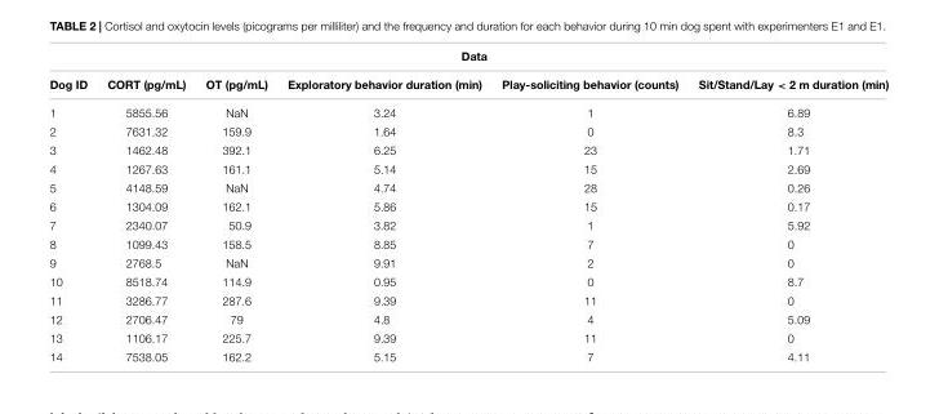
<table><thead><tr><td colspan="6">Data</td></tr><tr><td>Dog ID</td><td>CORT (pg/mL)</td><td>OT (pg/mL)</td><td>Exploratory behavior duration (min)</td><td>Play-soliciting behavior (counts)</td><td>Sit/Stand/Lay &lt; 2 m duration (min)</td></tr></thead><tbody><tr><td>1</td><td>5855.56</td><td>NaN</td><td>3.24</td><td>1</td><td>6.89</td></tr><tr><td>2</td><td>7631.32</td><td>159.9</td><td>1.64</td><td>0</td><td>8.3</td></tr><tr><td>3</td><td>1462.48</td><td>392.1</td><td>6.25</td><td>23</td><td>1.71</td></tr><tr><td>4</td><td>1267.63</td><td>161.1</td><td>5.14</td><td>15</td><td>2.69</td></tr><tr><td>5</td><td>4148.59</td><td>NaN</td><td>4.74</td><td>28</td><td>0.26</td></tr><tr><td>6</td><td>1304.09</td><td>162.1</td><td>5.86</td><td>15</td><td>0.17</td></tr><tr><td>7</td><td>2340.07</td><td>50.9</td><td>3.82</td><td>1</td><td>5.92</td></tr><tr><td>8</td><td>1099.43</td><td>158.5</td><td>8.85</td><td>7</td><td>0</td></tr><tr><td>9</td><td>2768.5</td><td>NaN</td><td>9.91</td><td>2</td><td>0</td></tr><tr><td>10</td><td>8518.74</td><td>114.9</td><td>0.95</td><td>0</td><td>8.7</td></tr><tr><td>11</td><td>3286.77</td><td>287.6</td><td>9.39</td><td>11</td><td>0</td></tr><tr><td>12</td><td>2706.47</td><td>79</td><td>4.8</td><td>4</td><td>5.09</td></tr><tr><td>13</td><td>1106.17</td><td>225.7</td><td>9.39</td><td>11</td><td>0</td></tr><tr><td>14</td><td>7538.05</td><td>162.2</td><td>5.15</td><td>7</td><td>4.11</td></tr></tbody></table>